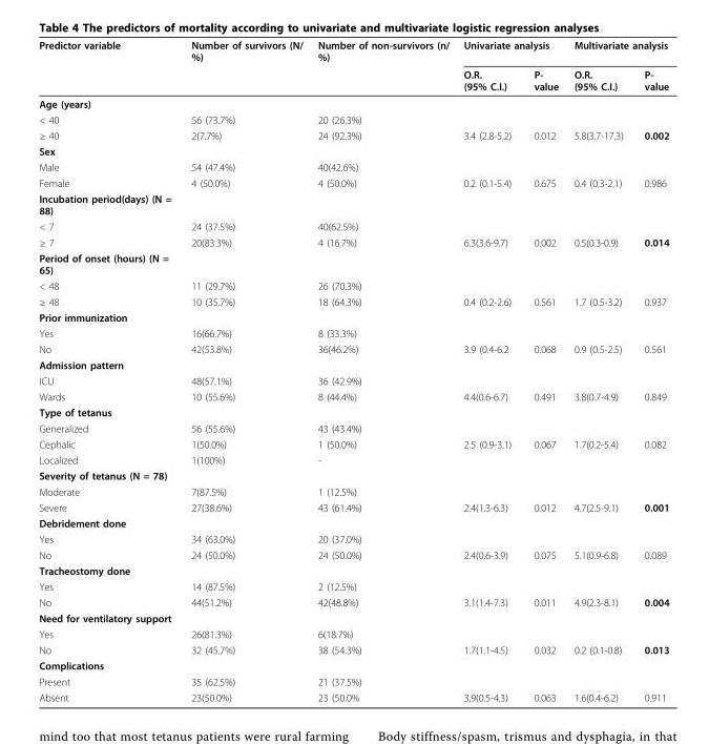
<table><thead><tr><td rowspan="2">Predictor variable</td><td rowspan="2">Number of survivors (N/ %)</td><td rowspan="2">Number of non-survivors (n/ %)</td><td colspan="2">Univariate analysis</td><td colspan="2">Multivariate analysis</td></tr><tr><td>O.R. (95% C.I.)</td><td>P- value</td><td>O.R. (95% C.I.)</td><td>P- value</td></tr></thead><tbody><tr><td colspan="7">Age (years)</td></tr><tr><td>&lt; 40</td><td>56 (73.7%)</td><td>20 (26.3%)</td><td></td><td></td><td></td><td></td></tr><tr><td>≥ 40</td><td>2(7.7%)</td><td>24 (92.3%)</td><td>3.4 (2.8-5.2)</td><td>0.012</td><td>5.8(3.7-17.3)</td><td>0.002</td></tr><tr><td colspan="7">Sex</td></tr><tr><td>Male</td><td>54 (47.4%)</td><td>40(42.6%)</td><td></td><td></td><td></td><td></td></tr><tr><td>Female</td><td>4 (50.0%)</td><td>4 (50.0%)</td><td>0.2 (0.1-5.4)</td><td>0.675</td><td>0.4 (0.3-2.1)</td><td>0.986</td></tr><tr><td colspan="7">Incubation period(days) (N = 88)</td></tr><tr><td>&lt; 7</td><td>24 (37.5%)</td><td>40(62.5%)</td><td></td><td></td><td></td><td></td></tr><tr><td>≥ 7</td><td>20(83.3%)</td><td>4 (16.7%)</td><td>6.3(3.6-9.7)</td><td>0.002</td><td>0.5(0.3-0.9)</td><td>0.014</td></tr><tr><td colspan="7">Period of onset (hours) (N = 65)</td></tr><tr><td>&lt; 48</td><td>11 (29.7%)</td><td>26 (70.3%)</td><td></td><td></td><td></td><td></td></tr><tr><td>≥ 48</td><td>10 (35.7%)</td><td>18 (64.3%)</td><td>0.4 (0.2-2.6)</td><td>0.561</td><td>1.7 (0.5-3.2)</td><td>0.937</td></tr><tr><td colspan="7">Prior immunization</td></tr><tr><td>Yes</td><td>16(66.7%)</td><td>8 (33.3%)</td><td></td><td></td><td></td><td></td></tr><tr><td>No</td><td>42(53.8%)</td><td>36(46.2%)</td><td>3.9 (0.4-6.2</td><td>0.068</td><td>0.9 (0.5-2.5)</td><td>0.561</td></tr><tr><td colspan="7">Admission pattern</td></tr><tr><td>ICU</td><td>48(57.1%)</td><td>36 (42.9%)</td><td></td><td></td><td></td><td></td></tr><tr><td>Wards</td><td>10 (55.6%)</td><td>8 (44.4%)</td><td>4.4(0.6-6.7)</td><td>0.491</td><td>3.8(0.7-4.9)</td><td>0.849</td></tr><tr><td colspan="7">Type of tetanus</td></tr><tr><td>Generalized</td><td>56 (55.6%)</td><td>43 (43.4%)</td><td></td><td></td><td></td><td></td></tr><tr><td>Cephalic</td><td>1(50.0%)</td><td>1 (50.0%)</td><td>2.5 (0.9-3.1)</td><td>0.067</td><td>1.7(0.2-5.4)</td><td>0.082</td></tr><tr><td>Localized</td><td>1(100%)</td><td>-</td><td></td><td></td><td></td><td></td></tr><tr><td colspan="7">Severity of tetanus (N = 78)</td></tr><tr><td>Moderate</td><td>7(87.5%)</td><td>1 (12.5%)</td><td></td><td></td><td></td><td></td></tr><tr><td>Severe</td><td>27(38.6%)</td><td>43 (61.4%)</td><td>2.4(1.3-6.3)</td><td>0.012</td><td>4.7(2.5-9.1)</td><td>0.001</td></tr><tr><td colspan="7">Debridement done</td></tr><tr><td>Yes</td><td>34 (63.0%)</td><td>20 (37.0%)</td><td></td><td></td><td></td><td></td></tr><tr><td>No</td><td>24 (50.0%)</td><td>24 (50.0%)</td><td>2.4(0.6-3.9)</td><td>0.075</td><td>5.1(0.9-6.8)</td><td>0.089</td></tr><tr><td colspan="7">Tracheostomy done</td></tr><tr><td>Yes</td><td>14 (87.5%)</td><td>2 (12.5%)</td><td></td><td></td><td></td><td></td></tr><tr><td>No</td><td>44(51.2%)</td><td>42(48.8%)</td><td>3.1(1.4-7.3)</td><td>0.011</td><td>4.9(2.3-8.1)</td><td>0.004</td></tr><tr><td colspan="7">Need for ventilatory support</td></tr><tr><td>Yes</td><td>26(81.3%)</td><td>6(18.7%)</td><td></td><td></td><td></td><td></td></tr><tr><td>No</td><td>32 (45.7%)</td><td>38 (54.3%)</td><td>1.7(1.1-4.5)</td><td>0.032</td><td>0.2 (0.1-0.8)</td><td>0.013</td></tr><tr><td colspan="7">Complications</td></tr><tr><td>Present</td><td>35 (62.5%)</td><td>21 (37.5%)</td><td></td><td></td><td></td><td></td></tr><tr><td>Absent</td><td>23(50.0%)</td><td>23 (50.0%</td><td>3,9(0.5-4.3)</td><td>0.063</td><td>1.6(0.4-6.2)</td><td>0.911</td></tr></tbody></table>